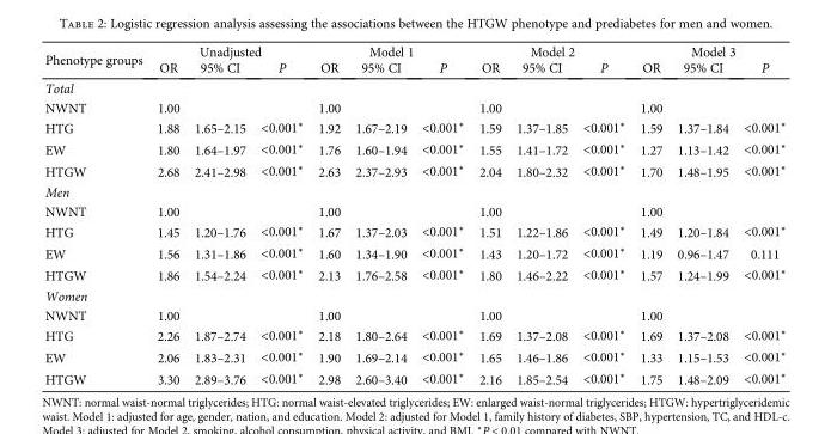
<table><thead><tr><td rowspan="2">Phenotype groups</td><td colspan="3">Unadjusted</td><td colspan="3">Model 1</td><td colspan="3">Model 2</td><td colspan="3">Model 3</td></tr><tr><td>OR</td><td>95% CI</td><td>P</td><td>OR</td><td>95% CI</td><td>P</td><td>OR</td><td>95% CI</td><td>P</td><td>OR</td><td>95% CI</td><td>P</td></tr></thead><tbody><tr><td colspan="13">Total</td></tr><tr><td>NWNT</td><td>1.00</td><td></td><td></td><td>1.00</td><td></td><td></td><td>1.00</td><td></td><td></td><td>1.00</td><td></td><td></td></tr><tr><td>HTG</td><td>1.88</td><td>1.65–2.15</td><td>&lt;0.001∗</td><td>1.92</td><td>1.67–2.19</td><td>&lt;0.001∗</td><td>1.59</td><td>1.37–1.85</td><td>&lt;0.001∗</td><td>1.59</td><td>1.37–1.84</td><td>&lt;0.001∗</td></tr><tr><td>EW</td><td>1.80</td><td>1.64–1.97</td><td>&lt;0.001∗</td><td>1.76</td><td>1.60–1.94</td><td>&lt;0.001∗</td><td>1.55</td><td>1.41–1.72</td><td>&lt;0.001∗</td><td>1.27</td><td>1.13–1.42</td><td>&lt;0.001∗</td></tr><tr><td>HTGW</td><td>2.68</td><td>2.41–2.98</td><td>&lt;0.001∗</td><td>2.63</td><td>2.37–2.93</td><td>&lt;0.001∗</td><td>2.04</td><td>1.80–2.32</td><td>&lt;0.001∗</td><td>1.70</td><td>1.48–1.95</td><td>&lt;0.001∗</td></tr><tr><td colspan="13">Men</td></tr><tr><td>NWNT</td><td>1.00</td><td></td><td></td><td>1.00</td><td></td><td></td><td>1.00</td><td></td><td></td><td>1.00</td><td></td><td></td></tr><tr><td>HTG</td><td>1.45</td><td>1.20–1.76</td><td>&lt;0.001∗</td><td>1.67</td><td>1.37–2.03</td><td>&lt;0.001∗</td><td>1.51</td><td>1.22–1.86</td><td>&lt;0.001∗</td><td>1.49</td><td>1.20–1.84</td><td>&lt;0.001∗</td></tr><tr><td>EW</td><td>1.56</td><td>1.31–1.86</td><td>&lt;0.001∗</td><td>1.60</td><td>1.34–1.90</td><td>&lt;0.001∗</td><td>1.43</td><td>1.20–1.72</td><td>&lt;0.001∗</td><td>1.19</td><td>0.96–1.47</td><td>0.111</td></tr><tr><td>HTGW</td><td>1.86</td><td>1.54–2.24</td><td>&lt;0.001∗</td><td>2.13</td><td>1.76–2.58</td><td>&lt;0.001∗</td><td>1.80</td><td>1.46–2.22</td><td>&lt;0.001∗</td><td>1.57</td><td>1.24–1.99</td><td>&lt;0.001∗</td></tr><tr><td colspan="13">Women</td></tr><tr><td>NWNT</td><td>1.00</td><td></td><td></td><td>1.00</td><td></td><td></td><td>1.00</td><td></td><td></td><td>1.00</td><td></td><td></td></tr><tr><td>HTG</td><td>2.26</td><td>1.87–2.74</td><td>&lt;0.001∗</td><td>2.18</td><td>1.80–2.64</td><td>&lt;0.001∗</td><td>1.69</td><td>1.37–2.08</td><td>&lt;0.001∗</td><td>1.69</td><td>1.37–2.08</td><td>&lt;0.001∗</td></tr><tr><td>EW</td><td>2.06</td><td>1.83–2.31</td><td>&lt;0.001∗</td><td>1.90</td><td>1.69–2.14</td><td>&lt;0.001∗</td><td>1.65</td><td>1.46–1.86</td><td>&lt;0.001∗</td><td>1.33</td><td>1.15–1.53</td><td>&lt;0.001∗</td></tr><tr><td>HTGW</td><td>3.30</td><td>2.89–3.76</td><td>&lt;0.001∗</td><td>2.98</td><td>2.60–3.40</td><td>&lt;0.001∗</td><td>2.16</td><td>1.85–2.54</td><td>&lt;0.001∗</td><td>1.75</td><td>1.48–2.09</td><td>&lt;0.001∗</td></tr></tbody></table>